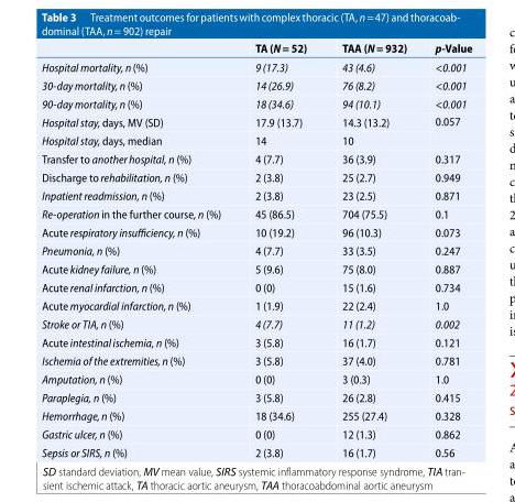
<table><thead><tr><td></td><td>TA (N= 52)</td><td>TAA (N= 932)</td><td>p-Value</td></tr></thead><tbody><tr><td>Hospital mortality, n (%)</td><td>9 (17.3)</td><td>43 (4.6)</td><td>&lt;0.001</td></tr><tr><td>30-day mortality,n (%)</td><td>14 (26.9)</td><td>76 (8.2)</td><td>&lt;0.001</td></tr><tr><td>90-day mortality,n (%)</td><td>18 (34.6)</td><td>94 (10.1)</td><td>&lt;0.001</td></tr><tr><td>Hospital stay, days, MV (SD)</td><td>17.9 (13.7)</td><td>14.3 (13.2)</td><td rowspan="2">0.057</td></tr><tr><td>Hospital stay, days, median</td><td>14</td><td>10</td></tr><tr><td>Transfer to anotherhospital, n (%)</td><td>4 (7.7)</td><td>36 (3.9)</td><td>0.317</td></tr><tr><td>Discharge to rehabilitation, n (%)</td><td>2 (3.8)</td><td>25 (2.7)</td><td>0.949</td></tr><tr><td>Inpatient readmission, n (%)</td><td>2 (3.8)</td><td>23 (2.5)</td><td>0.871</td></tr><tr><td>Re-operation in the further course,n (%)</td><td>45 (86.5)</td><td>704 (75.5)</td><td>0.1</td></tr><tr><td>Acuterespiratory insufficiency, n (%)</td><td>10 (19.2)</td><td>96 (10.3)</td><td>0.073</td></tr><tr><td>Pneumonia, n (%)</td><td>4 (7.7)</td><td>33 (3.5)</td><td>0.247</td></tr><tr><td>Acutekidney failure, n (%)</td><td>5 (9.6)</td><td>75 (8.0)</td><td>0.887</td></tr><tr><td>Acuterenal infarction, n (%)</td><td>0 (0)</td><td>15 (1.6)</td><td>0.734</td></tr><tr><td>Acutemyocardial infarction,n (%)</td><td>1 (1.9)</td><td>22 (2.4)</td><td>1.0</td></tr><tr><td>Stroke or TIA, n (%)</td><td>4 (7.7)</td><td>11 (1.2)</td><td>0.002</td></tr><tr><td>Acuteintestinal ischemia, n (%)</td><td>3 (5.8)</td><td>16 (1.7)</td><td>0.121</td></tr><tr><td>Ischemia of the extremities,n (%)</td><td>3 (5.8)</td><td>37 (4.0)</td><td>0.781</td></tr><tr><td>Amputation, n (%)</td><td>0 (0)</td><td>3 (0.3)</td><td>1.0</td></tr><tr><td>Paraplegia, n (%)</td><td>3 (5.8)</td><td>26 (2.8)</td><td>0.415</td></tr><tr><td>Hemorrhage,n (%)</td><td>18 (34.6)</td><td>255 (27.4)</td><td>0.328</td></tr><tr><td>Gastric ulcer, n (%)</td><td>0 (0)</td><td>12 (1.3)</td><td>0.862</td></tr><tr><td>Sepsis or SIRS, n (%)</td><td>2 (3.8)</td><td>16 (1.7)</td><td>0.56</td></tr></tbody></table>